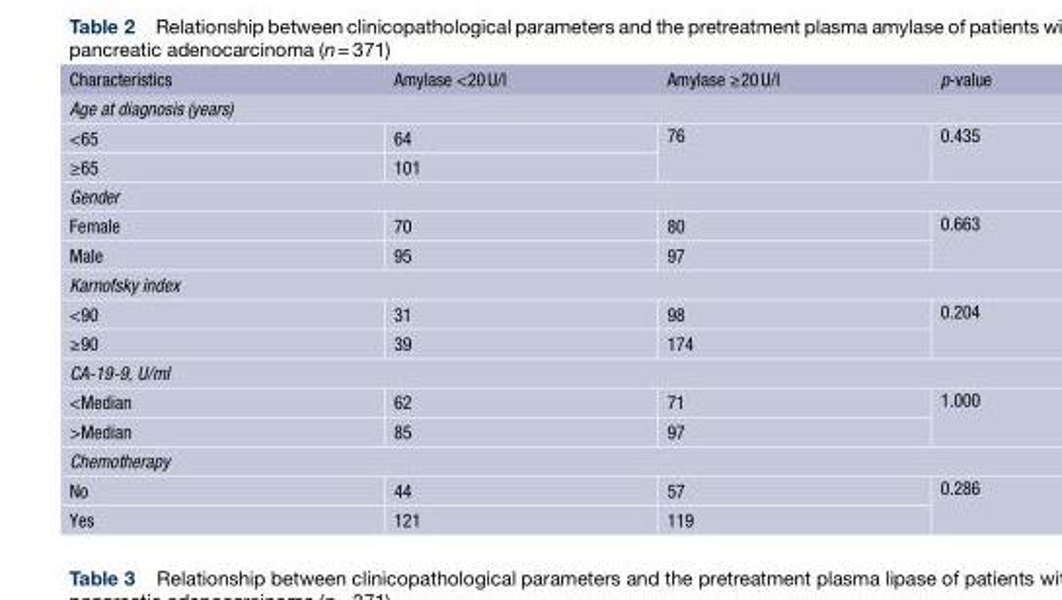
<table><thead><tr><td>Characteristics</td><td>Amylase &lt;20U/l</td><td>Amylase ≥20U/l</td><td>p-value</td></tr></thead><tbody><tr><td colspan="4">Age at diagnosis (years)</td></tr><tr><td>&lt;65</td><td>64</td><td rowspan="2">76</td><td rowspan="2">0.435</td></tr><tr><td>≥65</td><td>101</td></tr><tr><td colspan="4">Gender</td></tr><tr><td>Female</td><td>70</td><td>80</td><td rowspan="2">0.663</td></tr><tr><td>Male</td><td>95</td><td>97</td></tr><tr><td colspan="4">Karnofsky index</td></tr><tr><td>&lt;90</td><td>31</td><td>98</td><td rowspan="2">0.204</td></tr><tr><td>≥90</td><td>39</td><td>174</td></tr><tr><td colspan="4">CA-19-9, U/ml</td></tr><tr><td>&lt;Median</td><td>62</td><td>71</td><td rowspan="2">1.000</td></tr><tr><td>&gt;Median</td><td>85</td><td>97</td></tr><tr><td colspan="4">Chemotherapy</td></tr><tr><td>No</td><td>44</td><td>57</td><td rowspan="2">0.286</td></tr><tr><td>Yes</td><td>121</td><td>119</td></tr></tbody></table>